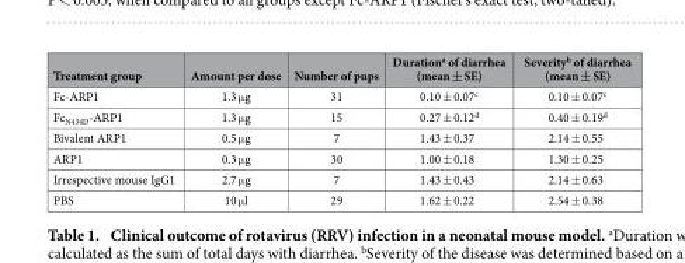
<table><thead><tr><td>Treatment group</td><td>Amount per dose</td><td>Number of pups</td><td>Duration<sup>a</sup> of diarrhea (mean ± SE)</td><td>Severity<sup>b</sup> of diarrhea (mean ± SE)</td></tr></thead><tbody><tr><td>Fc-ARP1</td><td>1.3 μg</td><td>31</td><td>0.10 ± 0.07<sup>c</sup></td><td>0.10 ± 0.07<sup>c</sup></td></tr><tr><td>Fc<sub>N434D</sub>-ARP1</td><td>1.3 μg</td><td>15</td><td>0.27 ± 0.12<sup>d</sup></td><td>0.40 ± 0.19<sup>d</sup></td></tr><tr><td>Bivalent ARP1</td><td>0.5 μg</td><td>7</td><td>1.43 ± 0.37</td><td>2.14 ± 0.55</td></tr><tr><td>ARP1</td><td>0.3 μg</td><td>30</td><td>1.00 ± 0.18</td><td>1.30 ± 0.25</td></tr><tr><td>Irrespective mouse IgG1</td><td>2.7 μg</td><td>7</td><td>1.43 ± 0.43</td><td>2.14 ± 0.63</td></tr><tr><td>PBS</td><td>10 μl</td><td>29</td><td>1.62 ± 0.22</td><td>2.54 ± 0.38</td></tr></tbody></table>